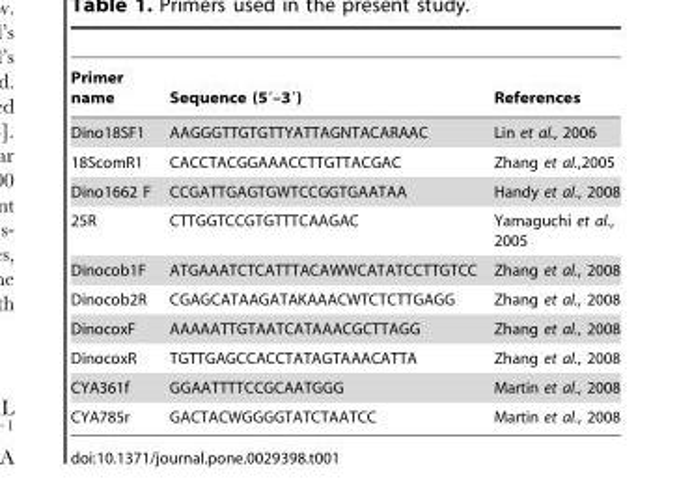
<table><thead><tr><td>Primer name</td><td>Sequence (5′–3′)</td><td>References</td></tr></thead><tbody><tr><td>Dino18SF1</td><td>AAGGGTTGTGTTYATTAGNTACARAAC</td><td>Lin et al., 2006</td></tr><tr><td>18ScomR1</td><td>CACCTACGGAAACCTTGTTACGAC</td><td>Zhang et al.,2005</td></tr><tr><td>Dino1662 F</td><td>CCGATTGAGTGWTCCGGTGAATAA</td><td>Handy et al., 2008</td></tr><tr><td>25R</td><td>CTTGGTCCGTGTTTCAAGAC</td><td>Yamaguchi et al., 2005</td></tr><tr><td>Dinocob1F</td><td>ATGAAATCTCATTTACAWWCATATCCTTGTCC</td><td>Zhang et al., 2008</td></tr><tr><td>Dinocob2R</td><td>CGAGCATAAGATAKAAACWTCTCTTGAGG</td><td>Zhang et al., 2008</td></tr><tr><td>DinocoxF</td><td>AAAAATTGTAATCATAAACGCTTAGG</td><td>Zhang et al., 2008</td></tr><tr><td>DinocoxR</td><td>TGTTGAGCCACCTATAGTAAACATTA</td><td>Zhang et al., 2008</td></tr><tr><td>CYA361f</td><td>GGAATTTTCCGCAATGGG</td><td>Martin et al., 2008</td></tr><tr><td>CYA785r</td><td>GACTACWGGGGTATCTAATCC</td><td>Martin et al., 2008</td></tr></tbody></table>